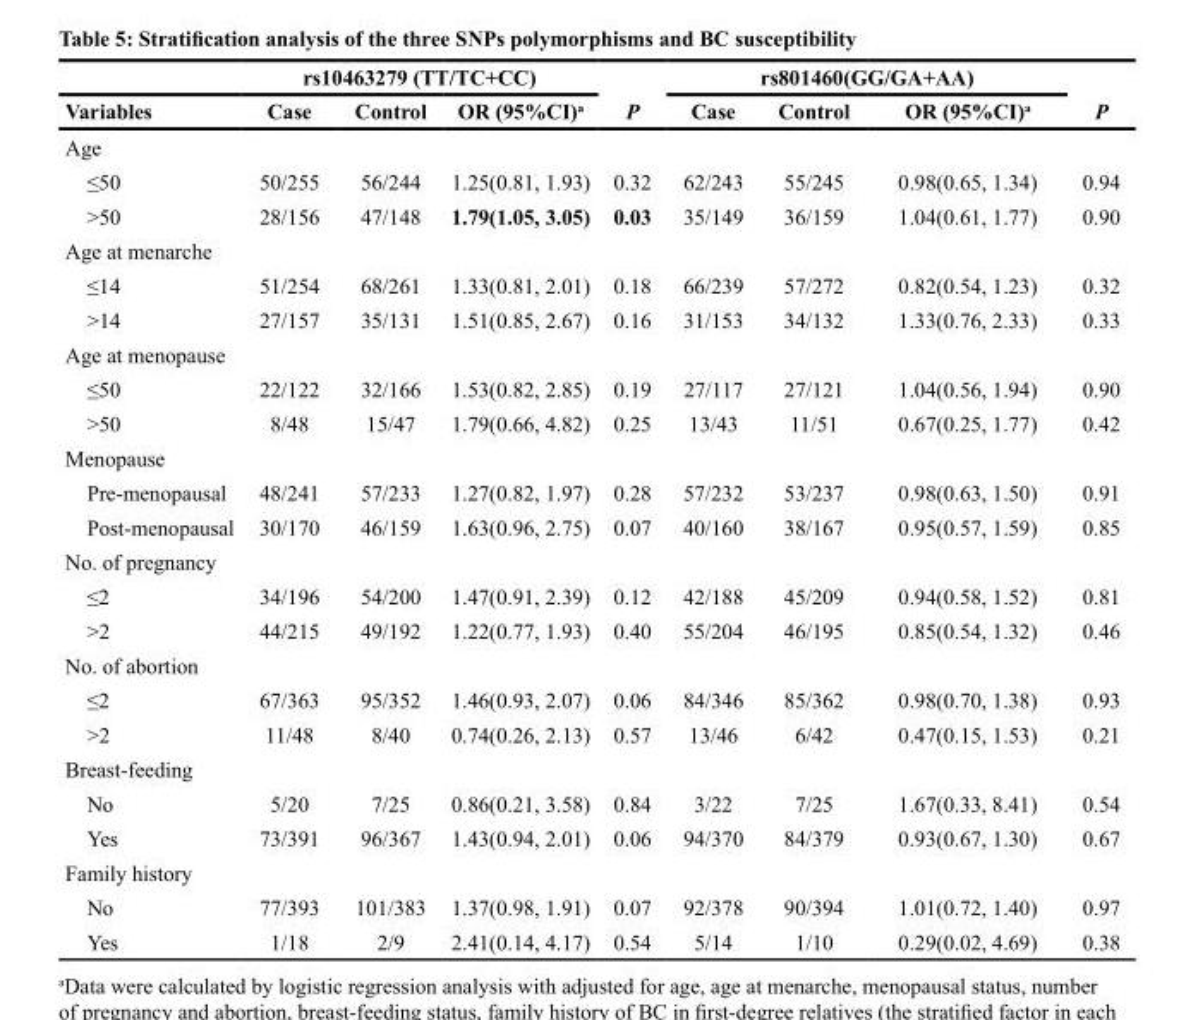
<table><thead><tr><td rowspan="2">Variables</td><td colspan="3">rs10463279 (TT/TC+CC)</td><td rowspan="2">P</td><td colspan="3">rs801460(GG/GA+AA)</td><td rowspan="2">P</td></tr><tr><td>Case</td><td>Control</td><td>OR (95%CI)<sup>a</sup></td><td>Case</td><td>Control</td><td>OR (95%CI)<sup>a</sup></td></tr></thead><tbody><tr><td colspan="9">Age</td></tr><tr><td>≤50</td><td>50/255</td><td>56/244</td><td>1.25(0.81, 1.93)</td><td>0.32</td><td>62/243</td><td>55/245</td><td>0.98(0.65, 1.34)</td><td>0.94</td></tr><tr><td>&gt;50</td><td>28/156</td><td>47/148</td><td>1.79(1.05, 3.05)</td><td>0.03</td><td>35/149</td><td>36/159</td><td>1.04(0.61, 1.77)</td><td>0.90</td></tr><tr><td colspan="9">Age at menarche</td></tr><tr><td>≤14</td><td>51/254</td><td>68/261</td><td>1.33(0.81, 2.01)</td><td>0.18</td><td>66/239</td><td>57/272</td><td>0.82(0.54, 1.23)</td><td>0.32</td></tr><tr><td>&gt;14</td><td>27/157</td><td>35/131</td><td>1.51(0.85, 2.67)</td><td>0.16</td><td>31/153</td><td>34/132</td><td>1.33(0.76, 2.33)</td><td>0.33</td></tr><tr><td colspan="9">Age at menopause</td></tr><tr><td>≤50</td><td>22/122</td><td>32/166</td><td>1.53(0.82, 2.85)</td><td>0.19</td><td>27/117</td><td>27/121</td><td>1.04(0.56, 1.94)</td><td>0.90</td></tr><tr><td>&gt;50</td><td>8/48</td><td>15/47</td><td>1.79(0.66, 4.82)</td><td>0.25</td><td>13/43</td><td>11/51</td><td>0.67(0.25, 1.77)</td><td>0.42</td></tr><tr><td colspan="9">Menopause</td></tr><tr><td>Pre-menopausal</td><td>48/241</td><td>57/233</td><td>1.27(0.82, 1.97)</td><td>0.28</td><td>57/232</td><td>53/237</td><td>0.98(0.63, 1.50)</td><td>0.91</td></tr><tr><td>Post-menopausal</td><td>30/170</td><td>46/159</td><td>1.63(0.96, 2.75)</td><td>0.07</td><td>40/160</td><td>38/167</td><td>0.95(0.57, 1.59)</td><td>0.85</td></tr><tr><td colspan="9">No. of pregnancy</td></tr><tr><td>≤2</td><td>34/196</td><td>54/200</td><td>1.47(0.91, 2.39)</td><td>0.12</td><td>42/188</td><td>45/209</td><td>0.94(0.58, 1.52)</td><td>0.81</td></tr><tr><td>&gt;2</td><td>44/215</td><td>49/192</td><td>1.22(0.77, 1.93)</td><td>0.40</td><td>55/204</td><td>46/195</td><td>0.85(0.54, 1.32)</td><td>0.46</td></tr><tr><td colspan="9">No. of abortion</td></tr><tr><td>≤2</td><td>67/363</td><td>95/352</td><td>1.46(0.93, 2.07)</td><td>0.06</td><td>84/346</td><td>85/362</td><td>0.98(0.70, 1.38)</td><td>0.93</td></tr><tr><td>&gt;2</td><td>11/48</td><td>8/40</td><td>0.74(0.26, 2.13)</td><td>0.57</td><td>13/46</td><td>6/42</td><td>0.47(0.15, 1.53)</td><td>0.21</td></tr><tr><td colspan="9">Breast-feeding</td></tr><tr><td>No</td><td>5/20</td><td>7/25</td><td>0.86(0.21, 3.58)</td><td>0.84</td><td>3/22</td><td>7/25</td><td>1.67(0.33, 8.41)</td><td>0.54</td></tr><tr><td>Yes</td><td>73/391</td><td>96/367</td><td>1.43(0.94, 2.01)</td><td>0.06</td><td>94/370</td><td>84/379</td><td>0.93(0.67, 1.30)</td><td>0.67</td></tr><tr><td colspan="9">Family history</td></tr><tr><td>No</td><td>77/393</td><td>101/383</td><td>1.37(0.98, 1.91)</td><td>0.07</td><td>92/378</td><td>90/394</td><td>1.01(0.72, 1.40)</td><td>0.97</td></tr><tr><td>Yes</td><td>1/18</td><td>2/9</td><td>2.41(0.14, 4.17)</td><td>0.54</td><td>5/14</td><td>1/10</td><td>0.29(0.02, 4.69)</td><td>0.38</td></tr></tbody></table>